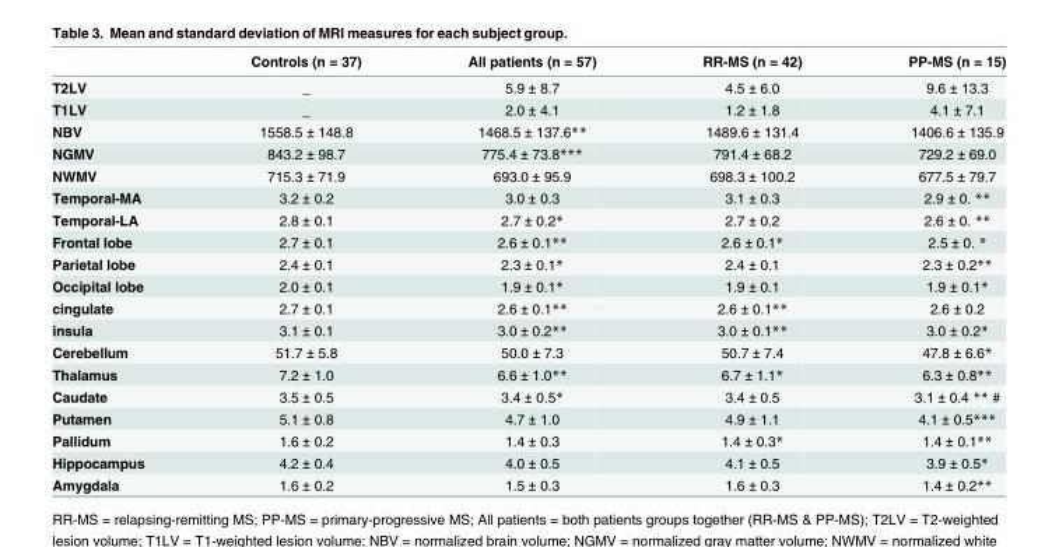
<table><thead><tr><td></td><td>Controls (n = 37)</td><td>All patients (n = 57)</td><td>RR-MS (n = 42)</td><td>PP-MS (n = 15)</td></tr></thead><tbody><tr><td>T2LV</td><td>_</td><td>5.9 ± 8.7</td><td>4.5 ± 6.0</td><td>9.6 ± 13.3</td></tr><tr><td>T1LV</td><td>_</td><td>2.0 ± 4.1</td><td>1.2 ± 1.8</td><td>4.1 ± 7.1</td></tr><tr><td>NBV</td><td>1558.5 ± 148.8</td><td>1468.5 ± 137.6**</td><td>1489.6 ± 131.4</td><td>1406.6 ± 135.9</td></tr><tr><td>NGMV</td><td>843.2 ± 98.7</td><td>775.4 ± 73.8***</td><td>791.4 ± 68.2</td><td>729.2 ± 69.0</td></tr><tr><td>NWMV</td><td>715.3 ± 71.9</td><td>693.0 ± 95.9</td><td>698.3 ± 100.2</td><td>677.5 ± 79.7</td></tr><tr><td>Temporal-MA</td><td>3.2 ± 0.2</td><td>3.0 ± 0.3</td><td>3.1 ± 0.3</td><td>2.9 ± 0. **</td></tr><tr><td>Temporal-LA</td><td>2.8 ± 0.1</td><td>2.7 ± 0.2*</td><td>2.7 ± 0.2</td><td>2.6 ± 0. **</td></tr><tr><td>Frontal lobe</td><td>2.7 ± 0.1</td><td>2.6 ± 0.1**</td><td>2.6 ± 0.1*</td><td>2.5 ± 0. *</td></tr><tr><td>Parietal lobe</td><td>2.4 ± 0.1</td><td>2.3 ± 0.1*</td><td>2.4 ± 0.1</td><td>2.3 ± 0.2**</td></tr><tr><td>Occipital lobe</td><td>2.0 ± 0.1</td><td>1.9 ± 0.1*</td><td>1.9 ± 0.1</td><td>1.9 ± 0.1*</td></tr><tr><td>cingulate</td><td>2.7 ± 0.1</td><td>2.6 ± 0.1**</td><td>2.6 ± 0.1**</td><td>2.6 ± 0.2</td></tr><tr><td>insula</td><td>3.1 ± 0.1</td><td>3.0 ± 0.2**</td><td>3.0 ± 0.1**</td><td>3.0 ± 0.2*</td></tr><tr><td>Cerebellum</td><td>51.7 ± 5.8</td><td>50.0 ± 7.3</td><td>50.7 ± 7.4</td><td>47.8 ± 6.6*</td></tr><tr><td>Thalamus</td><td>7.2 ± 1.0</td><td>6.6 ± 1.0**</td><td>6.7 ± 1.1*</td><td>6.3 ± 0.8**</td></tr><tr><td>Caudate</td><td>3.5 ± 0.5</td><td>3.4 ± 0.5*</td><td>3.4 ± 0.5</td><td>3.1 ± 0.4 ** #</td></tr><tr><td>Putamen</td><td>5.1 ± 0.8</td><td>4.7 ± 1.0</td><td>4.9 ± 1.1</td><td>4.1 ± 0.5***</td></tr><tr><td>Pallidum</td><td>1.6 ± 0.2</td><td>1.4 ± 0.3</td><td>1.4 ± 0.3*</td><td>1.4 ± 0.1**</td></tr><tr><td>Hippocampus</td><td>4.2 ± 0.4</td><td>4.0 ± 0.5</td><td>4.1 ± 0.5</td><td>3.9 ± 0.5*</td></tr><tr><td>Amygdala</td><td>1.6 ± 0.2</td><td>1.5 ± 0.3</td><td>1.6 ± 0.3</td><td>1.4 ± 0.2**</td></tr></tbody></table>